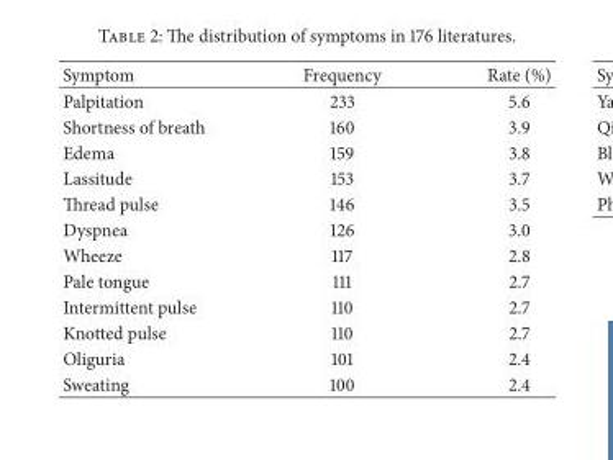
<table><thead><tr><td>Symptom</td><td>Frequency</td><td>Rate (%)</td></tr></thead><tbody><tr><td>Palpitation</td><td>233</td><td>5.6</td></tr><tr><td>Shortness of breath</td><td>160</td><td>3.9</td></tr><tr><td>Edema</td><td>159</td><td>3.8</td></tr><tr><td>Lassitude</td><td>153</td><td>3.7</td></tr><tr><td>Thread pulse</td><td>146</td><td>3.5</td></tr><tr><td>Dyspnea</td><td>126</td><td>3.0</td></tr><tr><td>Wheeze</td><td>117</td><td>2.8</td></tr><tr><td>Pale tongue</td><td>111</td><td>2.7</td></tr><tr><td>Intermittent pulse</td><td>110</td><td>2.7</td></tr><tr><td>Knotted pulse</td><td>110</td><td>2.7</td></tr><tr><td>Oliguria</td><td>101</td><td>2.4</td></tr><tr><td>Sweating</td><td>100</td><td>2.4</td></tr></tbody></table>